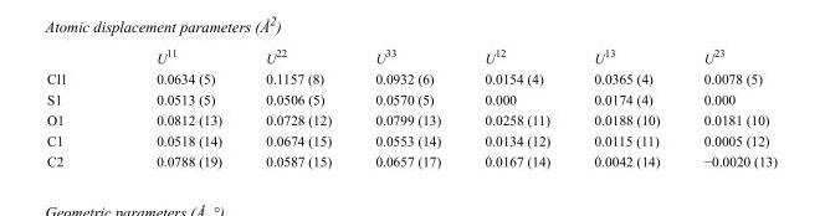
<table><thead><tr><td></td><td>U<sup>11</sup></td><td>U<sup>22</sup></td><td>U<sup>33</sup></td><td>U<sup>12</sup></td><td>U<sup>13</sup></td><td>U<sup>23</sup></td></tr></thead><tbody><tr><td>Cl1</td><td>0.0634 (5)</td><td>0.1157 (8)</td><td>0.0932 (6)</td><td>0.0154 (4)</td><td>0.0365 (4)</td><td>0.0078 (5)</td></tr><tr><td>S1</td><td>0.0513 (5)</td><td>0.0506 (5)</td><td>0.0570 (5)</td><td>0.000</td><td>0.0174 (4)</td><td>0.000</td></tr><tr><td>O1</td><td>0.0812 (13)</td><td>0.0728 (12)</td><td>0.0799 (13)</td><td>0.0258 (11)</td><td>0.0188 (10)</td><td>0.0181 (10)</td></tr><tr><td>C1</td><td>0.0518 (14)</td><td>0.0674 (15)</td><td>0.0553 (14)</td><td>0.0134 (12)</td><td>0.0115 (11)</td><td>0.0005 (12)</td></tr><tr><td>C2</td><td>0.0788 (19)</td><td>0.0587 (15)</td><td>0.0657 (17)</td><td>0.0167 (14)</td><td>0.0042 (14)</td><td>−0.0020 (13)</td></tr></tbody></table>